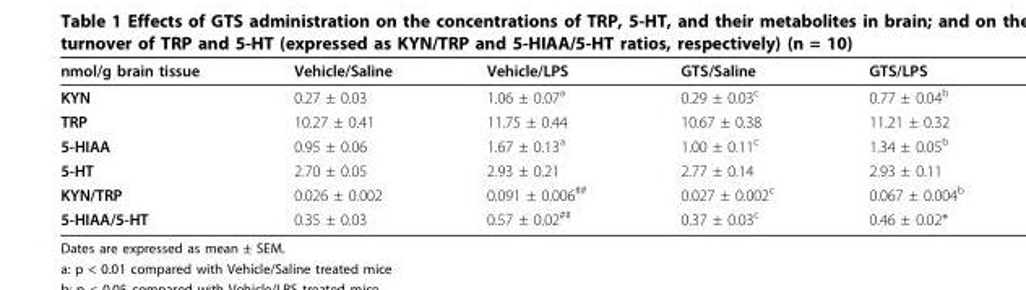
<table><thead><tr><td>nmol/g brain tissue</td><td>Vehicle/Saline</td><td>Vehicle/LPS</td><td>GTS/Saline</td><td>GTS/LPS</td></tr></thead><tbody><tr><td>KYN</td><td>0.27 ± 0.03</td><td>1.06 ± 0.07<sup>a</sup></td><td>0.29 ± 0.03<sup>c</sup></td><td>0.77 ± 0.04<sup>b</sup></td></tr><tr><td>TRP</td><td>10.27 ± 0.41</td><td>11.75 ± 0.44</td><td>10.67 ± 0.38</td><td>11.21 ± 0.32</td></tr><tr><td>5-HIAA</td><td>0.95 ± 0.06</td><td>1.67 ± 0.13<sup>a</sup></td><td>1.00 ± 0.11<sup>c</sup></td><td>1.34 ± 0.05<sup>b</sup></td></tr><tr><td>5-HT</td><td>2.70 ± 0.05</td><td>2.93 ± 0.21</td><td>2.77 ± 0.14</td><td>2.93 ± 0.11</td></tr><tr><td>KYN/TRP</td><td>0.026 ± 0.002</td><td>0.091 ± 0.006<sup>##</sup></td><td>0.027 ± 0.002<sup>c</sup></td><td>0.067 ± 0.004<sup>b</sup></td></tr><tr><td>5-HIAA/5-HT</td><td>0.35 ± 0.03</td><td>0.57 ± 0.02<sup>##</sup></td><td>0.37 ± 0.03<sup>c</sup></td><td>0.46 ± 0.02*</td></tr></tbody></table>